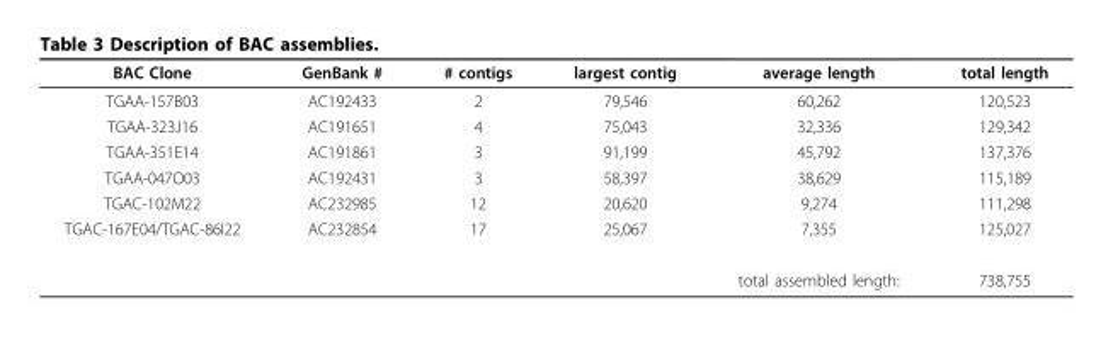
<table><thead><tr><td>BAC Clone</td><td>GenBank #</td><td># contigs</td><td>largest contig</td><td>average length</td><td>total length</td></tr></thead><tbody><tr><td>TGAA-157B03</td><td>AC192433</td><td>2</td><td>79,546</td><td>60,262</td><td>120,523</td></tr><tr><td>TGAA-323J16</td><td>AC191651</td><td>4</td><td>75,043</td><td>32,336</td><td>129,342</td></tr><tr><td>TGAA-351E14</td><td>AC191861</td><td>3</td><td>91,199</td><td>45,792</td><td>137,376</td></tr><tr><td>TGAA-047O03</td><td>AC192431</td><td>3</td><td>58,397</td><td>38,629</td><td>115,189</td></tr><tr><td>TGAC-102M22</td><td>AC232985</td><td>12</td><td>20,620</td><td>9,274</td><td>111,298</td></tr><tr><td rowspan="2">TGAC-167E04/TGAC-86I22</td><td>AC232854</td><td>17</td><td>25,067</td><td>7,355</td><td>125,027</td></tr><tr><td></td><td></td><td></td><td>total assembled length:</td><td>738,755</td></tr></tbody></table>